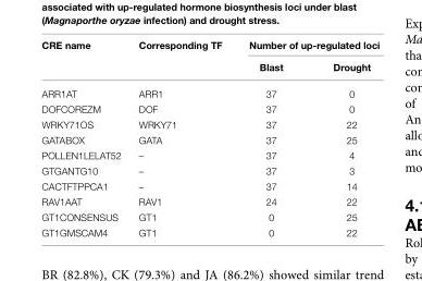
<table><thead><tr><td rowspan="2">CRE name</td><td rowspan="2">Corresponding TF</td><td colspan="2">Number of up-regulated loci</td></tr><tr><td>Blast</td><td>Drought</td></tr></thead><tbody><tr><td>ARR1AT</td><td>ARR1</td><td>37</td><td>0</td></tr><tr><td>DOFCOREZM</td><td>DOF</td><td>37</td><td>0</td></tr><tr><td>WRKY71OS</td><td>WRKY71</td><td>37</td><td>22</td></tr><tr><td>GATABOX</td><td>GATA</td><td>37</td><td>25</td></tr><tr><td>POLLEN1LELAT52</td><td>–</td><td>37</td><td>4</td></tr><tr><td>GTGANTG10</td><td>–</td><td>37</td><td>3</td></tr><tr><td>CACTFTPPCA1</td><td>–</td><td>37</td><td>14</td></tr><tr><td>RAV1AAT</td><td>RAV1</td><td>24</td><td>22</td></tr><tr><td>GT1CONSENSUS</td><td>GT1</td><td>0</td><td>25</td></tr><tr><td>GT1GMSCAM4</td><td>GT1</td><td>0</td><td>22</td></tr></tbody></table>